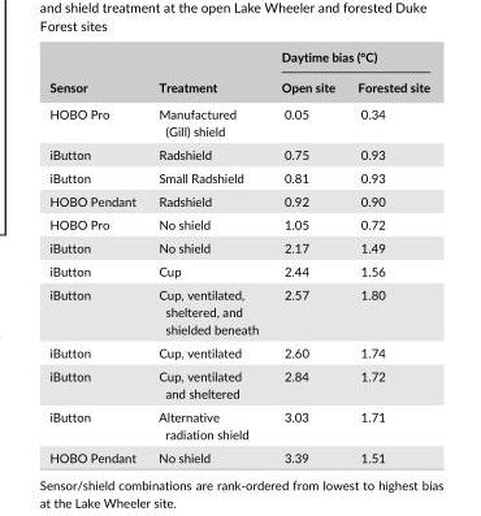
<table><thead><tr><td rowspan="2">Sensor</td><td rowspan="2">Treatment</td><td colspan="2">Daytime bias (°C)</td></tr><tr><td>Open site</td><td>Forested site</td></tr></thead><tbody><tr><td>HOBO Pro</td><td>Manufactured (Gill) shield</td><td>0.05</td><td>0.34</td></tr><tr><td>iButton</td><td>Radshield</td><td>0.75</td><td>0.93</td></tr><tr><td>iButton</td><td>Small Radshield</td><td>0.81</td><td>0.93</td></tr><tr><td>HOBO Pendant</td><td>Radshield</td><td>0.92</td><td>0.90</td></tr><tr><td>HOBO Pro</td><td>No shield</td><td>1.05</td><td>0.72</td></tr><tr><td>iButton</td><td>No shield</td><td>2.17</td><td>1.49</td></tr><tr><td>iButton</td><td>Cup</td><td>2.44</td><td>1.56</td></tr><tr><td>iButton</td><td>Cup, ventilated, sheltered, and shielded beneath</td><td>2.57</td><td>1.80</td></tr><tr><td>iButton</td><td>Cup, ventilated</td><td>2.60</td><td>1.74</td></tr><tr><td>iButton</td><td>Cup, ventilated and sheltered</td><td>2.84</td><td>1.72</td></tr><tr><td>iButton</td><td>Alternative radiation shield</td><td>3.03</td><td>1.71</td></tr><tr><td>HOBO Pendant</td><td>No shield</td><td>3.39</td><td>1.51</td></tr></tbody></table>